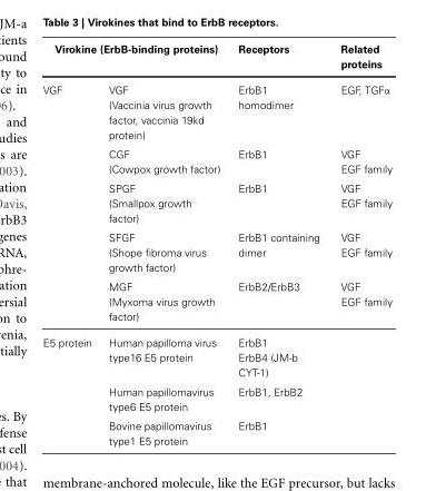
<table><thead><tr><td colspan="2">Virokine (ErbB-binding proteins)</td><td rowspan="2">Receptors ErbB1 homodimer</td><td rowspan="2">Related proteins EGF, TGFα</td></tr><tr><td>VGF</td><td>VGF (Vaccinia virus growth factor, vaccinia 19kd protein)</td></tr></thead><tbody><tr><td></td><td>CGF (Cowpox growth factor)</td><td>ErbB1</td><td>VGF EGF family</td></tr><tr><td></td><td>SPGF (Smallpox growth factor)</td><td>ErbB1</td><td>VGF EGF family</td></tr><tr><td></td><td>SFGF (Shope fibroma virus growth factor)</td><td>ErbB1 containing dimer</td><td>VGF EGF family</td></tr><tr><td></td><td>MGF (Myxoma virus growth factor)</td><td>ErbB2/ErbB3</td><td>VGF EGF family</td></tr><tr><td rowspan="3">E5 protein</td><td>Human papilloma virus type16 E5 protein</td><td>ErbB1 ErbB4 (JM-b CYT-1)</td><td></td></tr><tr><td>Human papillomavirus type6 E5 protein</td><td>ErbB1, ErbB2</td><td></td></tr><tr><td>Bovine papillomavirus type1 E5 protein</td><td>ErbB1</td><td></td></tr></tbody></table>